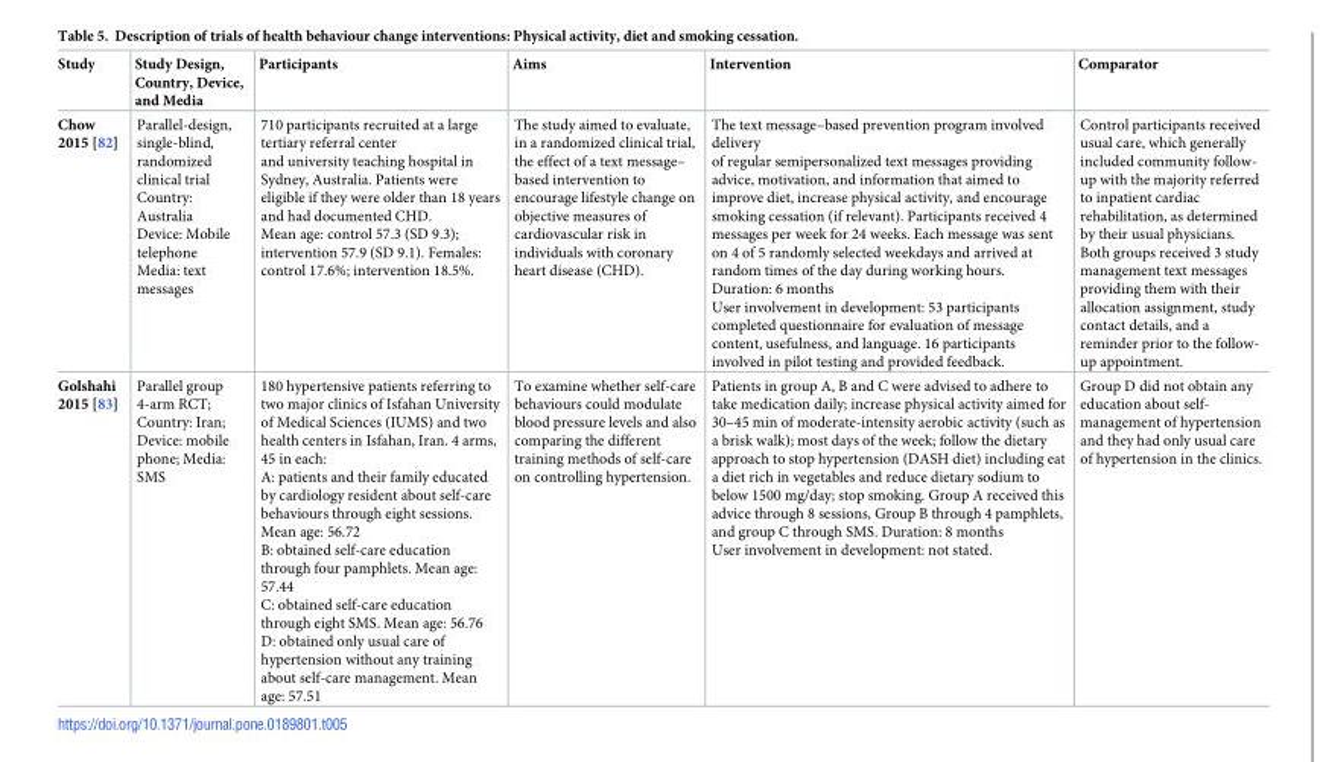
<table><thead><tr><td>Study</td><td>Study Design, Country, Device, and Media</td><td>Participants</td><td>Aims</td><td>Intervention</td><td>Comparator</td></tr></thead><tbody><tr><td>Chow 2015 [82]</td><td>Parallel-design, single-blind, randomized clinical trial Country: Australia Device: Mobile telephone Media: text messages</td><td>710 participants recruited at a large tertiary referral center and university teaching hospital in Sydney, Australia. Patients were eligible if they were older than 18 years and had documented CHD. Mean age: control 57.3 (SD 9.3); intervention 57.9 (SD 9.1). Females: control 17.6%; intervention 18.5%.</td><td>The study aimed to evaluate, in a randomized clinical trial, the effect of a text message– based intervention to encourage lifestyle change on objective measures of cardiovascular risk in individuals with coronary heart disease (CHD).</td><td>The text message–based prevention program involved delivery of regular semipersonalized text messages providing advice, motivation, and information that aimed to improve diet, increase physical activity, and encourage smoking cessation (if relevant). Participants received 4 messages per week for 24 weeks. Each message was sent on 4 of 5 randomly selected weekdays and arrived at random times of the day during working hours. Duration: 6 months User involvement in development: 53 participants completed questionnaire for evaluation of message content, usefulness, and language. 16 participants involved in pilot testing and provided feedback.</td><td>Control participants received usual care, which generally included community follow- up with the majority referred to inpatient cardiac rehabilitation, as determined by their usual physicians. Both groups received 3 study management text messages providing them with their allocation assignment, study contact details, and a reminder prior to the follow- up appointment.</td></tr><tr><td>Golshahi 2015 [83]</td><td>Parallel group 4-arm RCT; Country: Iran; Device: mobile phone; Media: SMS</td><td>180 hypertensive patients referring to two major clinics of Isfahan University of Medical Sciences (IUMS) and two health centers in Isfahan, Iran. 4 arms, 45 in each: A: patients and their family educated by cardiology resident about self-care behaviours through eight sessions. Mean age: 56.72 B: obtained self-care education through four pamphlets. Mean age: 57.44 C: obtained self-care education through eight SMS. Mean age: 56.76 D: obtained only usual care of hypertension without any training about self-care management. Mean age: 57.51</td><td>To examine whether self-care behaviours could modulate blood pressure levels and also comparing the different training methods of self-care on controlling hypertension.</td><td>Patients in group A, B and C were advised to adhere to take medication daily; increase physical activity aimed for 30–45 min of moderate-intensity aerobic activity (such as a brisk walk); most days of the week; follow the dietary approach to stop hypertension (DASH diet) including eat a diet rich in vegetables and reduce dietary sodium to below 1500 mg/day; stop smoking. Group A received this advice through 8 sessions, Group B through 4 pamphlets, and group C through SMS. Duration: 8 months User involvement in development: not stated.</td><td>Group D did not obtain any education about self- management of hypertension and they had only usual care of hypertension in the clinics.</td></tr></tbody></table>